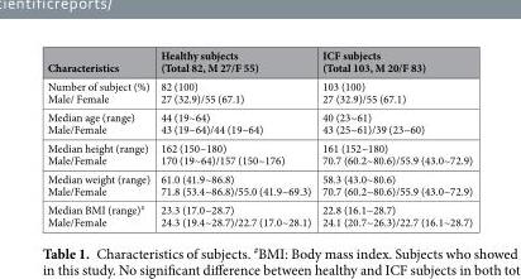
<table><thead><tr><td>Characteristics</td><td>Healthy subjects (Total 82, M 27/F 55)</td><td>ICF subjects (Total 103, M 20/F 83)</td></tr></thead><tbody><tr><td>Number of subject (%) Male/ Female</td><td>82 (100) 27 (32.9)/55 (67.1)</td><td>103 (100) 27 (32.9)/55 (67.1)</td></tr><tr><td>Median age (range) Male/Female</td><td>44 (19~64) 43 (19~64)/44 (19~64)</td><td>40 (23~61) 43 (25~61)/39 (23~60)</td></tr><tr><td>Median height (range) Male/Female</td><td>162 (150~180) 170 (19~64)/157 (150~176)</td><td>161 (152~180) 70.7 (60.2~80.6)/55.9 (43.0~72.9)</td></tr><tr><td>Median weight (range) Male/Female</td><td>61.0 (41.9~86.8) 71.8 (53.4~86.8)/55.0 (41.9~69.3)</td><td>58.3 (43.0~80.6) 70.7 (60.2~80.6)/55.9 (43.0~72.9)</td></tr><tr><td>Median BMI (range)<sup>#</sup> Male/Female</td><td>23.3 (17.0~28.7) 24.3 (19.4~28.7)/22.7 (17.0~28.1)</td><td>22.8 (16.1~28.7) 24.1 (20.7~26.3)/22.7 (16.1~28.7)</td></tr></tbody></table>